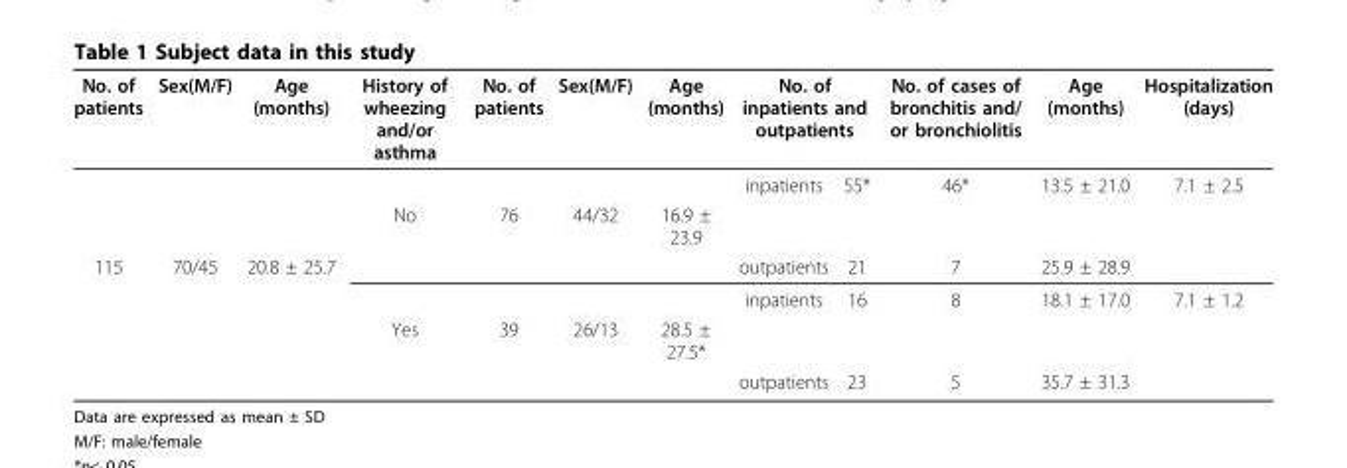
<table><thead><tr><td rowspan="2">No. of patients</td><td rowspan="2">Sex(M/F)</td><td rowspan="2">Age (months)</td><td rowspan="2">History of wheezing and/or asthma</td><td rowspan="2">No. of patients</td><td rowspan="2">Sex(M/F)</td><td rowspan="2">Age (months)</td><td colspan="2">No. of inpatients and outpatients</td><td rowspan="2">No. of cases of bronchitis and/ or bronchiolitis 46*</td><td rowspan="2">Age (months) 13.5 ± 21.0</td><td rowspan="2">Hospitalization (days) 7.1 ± 2.5</td></tr><tr><td>inpatients</td><td>55*</td></tr></thead><tbody><tr><td></td><td></td><td></td><td>No</td><td>76</td><td>44/32</td><td>16.9 ± 23.9</td><td></td><td></td><td></td><td></td><td></td></tr><tr><td rowspan="4">115</td><td>70/45</td><td>20.8 ± 25.7</td><td></td><td></td><td></td><td></td><td>outpatients</td><td>21</td><td>7</td><td>25.9 ± 28.9</td><td></td></tr><tr><td></td><td></td><td></td><td></td><td></td><td></td><td>inpatients</td><td>16</td><td>8</td><td>18.1 ± 17.0</td><td>7.1 ± 1.2</td></tr><tr><td></td><td></td><td>Yes</td><td>39</td><td>26/13</td><td>28.5 ± 27.5*</td><td></td><td></td><td></td><td></td><td></td></tr><tr><td></td><td></td><td></td><td></td><td></td><td></td><td>outpatients</td><td>23</td><td>5</td><td>35.7 ± 31.3</td><td></td></tr></tbody></table>